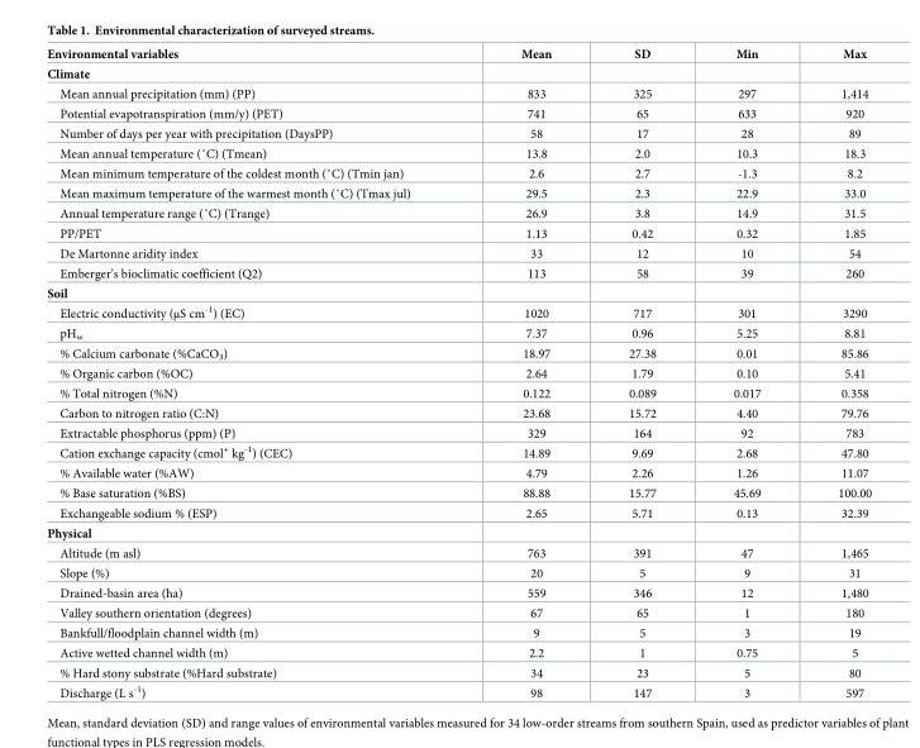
<table><thead><tr><td>Environmental variables</td><td>Mean</td><td>SD</td><td>Min</td><td>Max</td></tr></thead><tbody><tr><td colspan="5">Climate</td></tr><tr><td>Mean annual precipitation (mm) (PP)</td><td>833</td><td>325</td><td>297</td><td>1,414</td></tr><tr><td>Potential evapotranspiration (mm/y) (PET)</td><td>741</td><td>65</td><td>633</td><td>920</td></tr><tr><td>Number of days per year with precipitation (DaysPP)</td><td>58</td><td>17</td><td>28</td><td>89</td></tr><tr><td>Mean annual temperature (˚C) (Tmean)</td><td>13.8</td><td>2.0</td><td>10.3</td><td>18.3</td></tr><tr><td>Mean minimum temperature of the coldest month (˚C) (Tmin jan)</td><td>2.6</td><td>2.7</td><td>-1.3</td><td>8.2</td></tr><tr><td>Mean maximum temperature of the warmest month (˚C) (Tmax jul)</td><td>29.5</td><td>2.3</td><td>22.9</td><td>33.0</td></tr><tr><td>Annual temperature range (˚C) (Trange)</td><td>26.9</td><td>3.8</td><td>14.9</td><td>31.5</td></tr><tr><td>PP/PET</td><td>1.13</td><td>0.42</td><td>0.32</td><td>1.85</td></tr><tr><td>De Martonne aridity index</td><td>33</td><td>12</td><td>10</td><td>54</td></tr><tr><td>Emberger’s bioclimatic coefficient (Q2)</td><td>113</td><td>58</td><td>39</td><td>260</td></tr><tr><td colspan="5">Soil</td></tr><tr><td>Electric conductivity (μS cm<sup>-1</sup>) (EC)</td><td>1020</td><td>717</td><td>301</td><td>3290</td></tr><tr><td>pH<sub>w</sub></td><td>7.37</td><td>0.96</td><td>5.25</td><td>8.81</td></tr><tr><td>% Calcium carbonate (%CaCO<sub>3</sub>)</td><td>18.97</td><td>27.38</td><td>0.01</td><td>85.86</td></tr><tr><td>% Organic carbon (%OC)</td><td>2.64</td><td>1.79</td><td>0.10</td><td>5.41</td></tr><tr><td>% Total nitrogen (%N)</td><td>0.122</td><td>0.089</td><td>0.017</td><td>0.358</td></tr><tr><td>Carbon to nitrogen ratio (C:N)</td><td>23.68</td><td>15.72</td><td>4.40</td><td>79.76</td></tr><tr><td>Extractable phosphorus (ppm) (P)</td><td>329</td><td>164</td><td>92</td><td>783</td></tr><tr><td>Cation exchange capacity (cmol<sup>+</sup> kg<sup>-1</sup>) (CEC)</td><td>14.89</td><td>9.69</td><td>2.68</td><td>47.80</td></tr><tr><td>% Available water (%AW)</td><td>4.79</td><td>2.26</td><td>1.26</td><td>11.07</td></tr><tr><td>% Base saturation (%BS)</td><td>88.88</td><td>15.77</td><td>45.69</td><td>100.00</td></tr><tr><td>Exchangeable sodium % (ESP)</td><td>2.65</td><td>5.71</td><td>0.13</td><td>32.39</td></tr><tr><td colspan="5">Physical</td></tr><tr><td>Altitude (m asl)</td><td>763</td><td>391</td><td>47</td><td>1,465</td></tr><tr><td>Slope (%)</td><td>20</td><td>5</td><td>9</td><td>31</td></tr><tr><td>Drained-basin area (ha)</td><td>559</td><td>346</td><td>12</td><td>1,480</td></tr><tr><td>Valley southern orientation (degrees)</td><td>67</td><td>65</td><td>1</td><td>180</td></tr><tr><td>Bankfull/floodplain channel width (m)</td><td>9</td><td>5</td><td>3</td><td>19</td></tr><tr><td>Active wetted channel width (m)</td><td>2.2</td><td>1</td><td>0.75</td><td>5</td></tr><tr><td>% Hard stony substrate (%Hard substrate)</td><td>34</td><td>23</td><td>5</td><td>80</td></tr><tr><td>Discharge (L s<sup>-1</sup>)</td><td>98</td><td>147</td><td>3</td><td>597</td></tr></tbody></table>